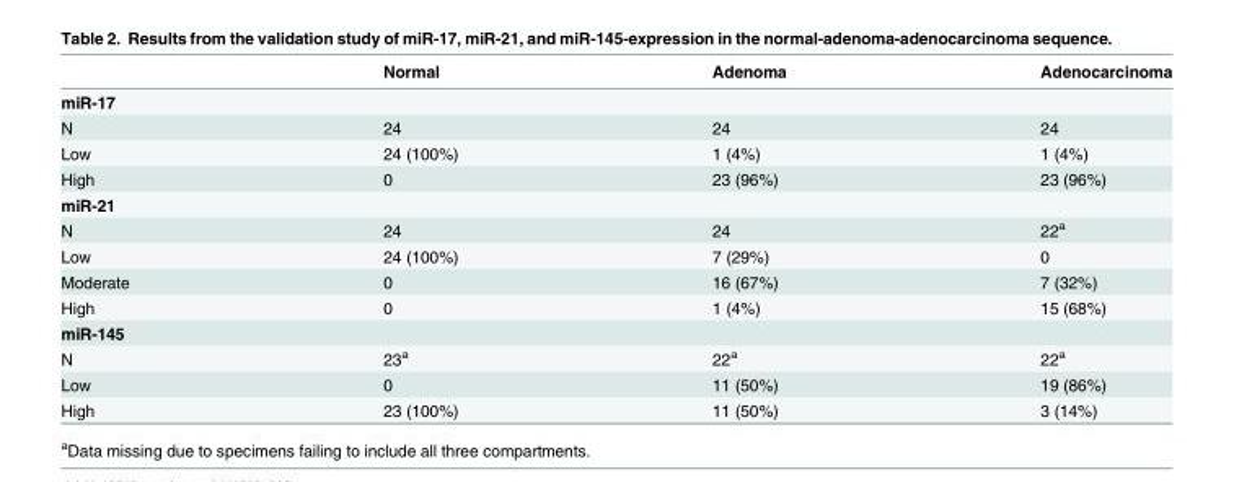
<table><thead><tr><td></td><td>Normal</td><td>Adenoma</td><td>Adenocarcinoma</td></tr></thead><tbody><tr><td colspan="4">miR-17</td></tr><tr><td>N</td><td>24</td><td>24</td><td>24</td></tr><tr><td>Low</td><td>24 (100%)</td><td>1 (4%)</td><td>1 (4%)</td></tr><tr><td>High</td><td>0</td><td>23 (96%)</td><td>23 (96%)</td></tr><tr><td colspan="4">miR-21</td></tr><tr><td>N</td><td>24</td><td>24</td><td>22<sup>a</sup></td></tr><tr><td>Low</td><td>24 (100%)</td><td>7 (29%)</td><td>0</td></tr><tr><td>Moderate</td><td>0</td><td>16 (67%)</td><td>7 (32%)</td></tr><tr><td>High</td><td>0</td><td>1 (4%)</td><td>15 (68%)</td></tr><tr><td colspan="4">miR-145</td></tr><tr><td>N</td><td>23<sup>a</sup></td><td>22<sup>a</sup></td><td>22<sup>a</sup></td></tr><tr><td>Low</td><td>0</td><td>11 (50%)</td><td>19 (86%)</td></tr><tr><td>High</td><td>23 (100%)</td><td>11 (50%)</td><td>3 (14%)</td></tr></tbody></table>